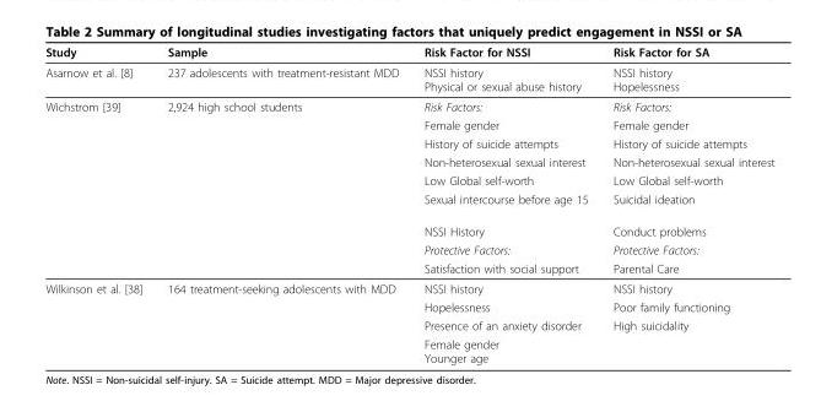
<table><thead><tr><td>Study</td><td>Sample</td><td>Risk Factor for NSSI</td><td>Risk Factor for SA</td></tr></thead><tbody><tr><td>Asarnow et al. [8]</td><td>237 adolescents with treatment-resistant MDD</td><td>NSSI history Physical or sexual abuse history</td><td>NSSI history Hopelessness</td></tr><tr><td rowspan="9">Wichstrom [39]</td><td>2,924 high school students</td><td>Risk Factors:</td><td>Risk Factors:</td></tr><tr><td></td><td>Female gender</td><td>Female gender</td></tr><tr><td></td><td>History of suicide attempts</td><td>History of suicide attempts</td></tr><tr><td></td><td>Non-heterosexual sexual interest</td><td>Non-heterosexual sexual interest</td></tr><tr><td></td><td>Low Global self-worth</td><td>Low Global self-worth</td></tr><tr><td></td><td>Sexual intercourse before age 15</td><td>Suicidal ideation</td></tr><tr><td></td><td>NSSI History</td><td>Conduct problems</td></tr><tr><td></td><td>Protective Factors:</td><td>Protective Factors:</td></tr><tr><td></td><td>Satisfaction with social support</td><td>Parental Care</td></tr><tr><td rowspan="4">Wilkinson et al. [38]</td><td>164 treatment-seeking adolescents with MDD</td><td>NSSI history</td><td>NSSI history</td></tr><tr><td></td><td>Hopelessness</td><td>Poor family functioning</td></tr><tr><td></td><td>Presence of an anxiety disorder</td><td>High suicidality</td></tr><tr><td></td><td>Female gender Younger age</td><td></td></tr></tbody></table>